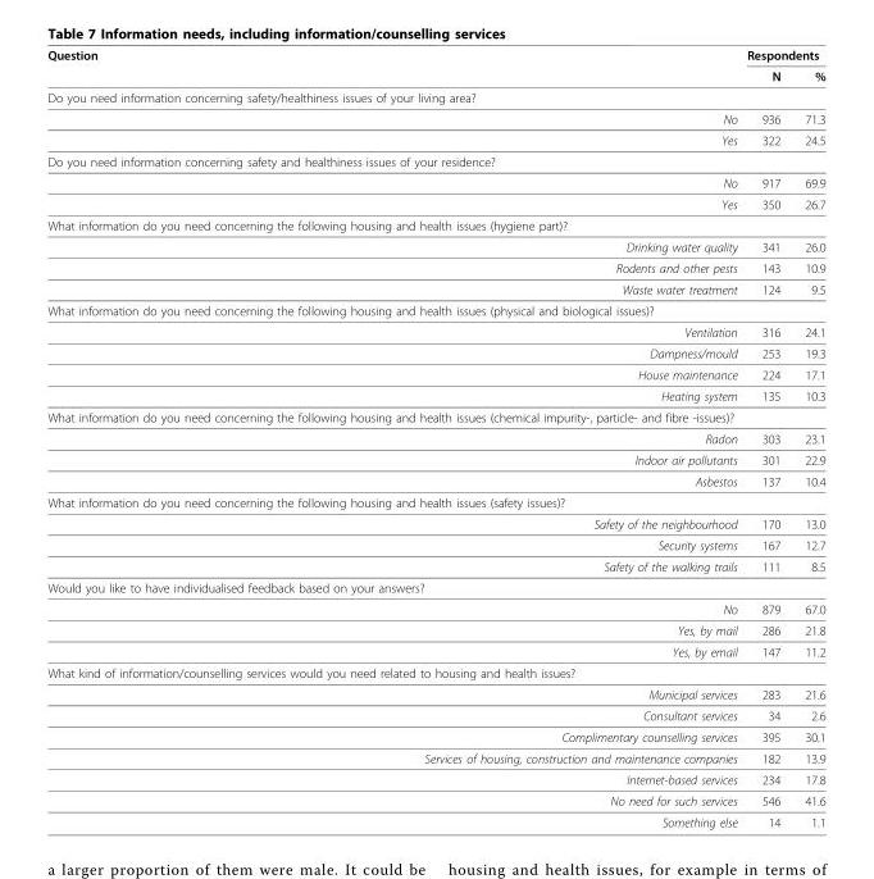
<table><thead><tr><td rowspan="2">Question</td><td colspan="2">Respondents</td></tr><tr><td>N</td><td>%</td></tr></thead><tbody><tr><td colspan="3">Do you need information concerning safety/healthiness issues of your living area?</td></tr><tr><td>No</td><td>936</td><td>71.3</td></tr><tr><td>Yes</td><td>322</td><td>24.5</td></tr><tr><td colspan="3">Do you need information concerning safety and healthiness issues of your residence?</td></tr><tr><td>No</td><td>917</td><td>69.9</td></tr><tr><td>Yes</td><td>350</td><td>26.7</td></tr><tr><td colspan="3">What information do you need concerning the following housing and health issues (hygiene part)?</td></tr><tr><td>Drinking water quality</td><td>341</td><td>26.0</td></tr><tr><td>Rodents and other pests</td><td>143</td><td>10.9</td></tr><tr><td>Waste water treatment</td><td>124</td><td>9.5</td></tr><tr><td colspan="3">What information do you need concerning the following housing and health issues (physical and biological issues)?</td></tr><tr><td>Ventilation</td><td>316</td><td>24.1</td></tr><tr><td>Dampness/mould</td><td>253</td><td>19.3</td></tr><tr><td>House maintenance</td><td>224</td><td>17.1</td></tr><tr><td>Heating system</td><td>135</td><td>10.3</td></tr><tr><td colspan="3">What information do you need concerning the following housing and health issues (chemical impurity-, particle- and fibre -issues)?</td></tr><tr><td>Radon</td><td>303</td><td>23.1</td></tr><tr><td>Indoor air pollutants</td><td>301</td><td>22.9</td></tr><tr><td>Asbestos</td><td>137</td><td>10.4</td></tr><tr><td colspan="3">What information do you need concerning the following housing and health issues (safety issues)?</td></tr><tr><td>Safety of the neighbourhood</td><td>170</td><td>13.0</td></tr><tr><td>Security systems</td><td>167</td><td>12.7</td></tr><tr><td>Safety of the walking trails</td><td>111</td><td>8.5</td></tr><tr><td colspan="3">Would you like to have individualised feedback based on your answers?</td></tr><tr><td>No</td><td>879</td><td>67.0</td></tr><tr><td>Yes, by mail</td><td>286</td><td>21.8</td></tr><tr><td>Yes, by email</td><td>147</td><td>11.2</td></tr><tr><td colspan="3">What kind of information/counselling services would you need related to housing and health issues?</td></tr><tr><td>Municipal services</td><td>283</td><td>21.6</td></tr><tr><td>Consultant services</td><td>34</td><td>2.6</td></tr><tr><td>Complimentary counselling services</td><td>395</td><td>30.1</td></tr><tr><td>Services of housing, construction and maintenance companies</td><td>182</td><td>13.9</td></tr><tr><td>Internet-based services</td><td>234</td><td>17.8</td></tr><tr><td>No need for such services</td><td>546</td><td>41.6</td></tr><tr><td>Something else</td><td>14</td><td>1.1</td></tr></tbody></table>